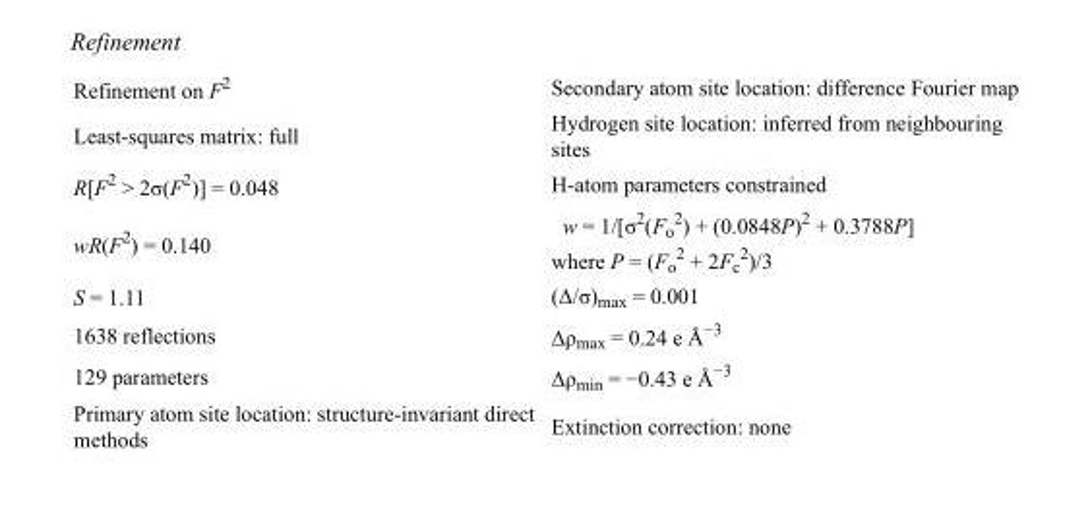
<table><tbody><tr><td>Refinement on F<sup>2</sup></td><td>Secondary atom site location: difference Fourier map</td></tr><tr><td>Least-squares matrix: full</td><td>Hydrogen site location: inferred from neighbouring sites</td></tr><tr><td>R[F<sup>2</sup> &gt; 2σ(F<sup>2</sup>)] = 0.048</td><td>H-atom parameters constrained</td></tr><tr><td>wR(F<sup>2</sup>) = 0.140</td><td>w = 1/[σ<sup>2</sup>(F<sub>o</sub> <sup>2</sup>) + (0.0848P)<sup>2</sup> + 0.3788P] where P = (F<sub>o</sub> <sup>2</sup> + 2F<sub>c</sub> <sup>2</sup>)/3</td></tr><tr><td>S = 1.11</td><td>(Δ/σ)<sub>max</sub> = 0.001</td></tr><tr><td>1638 reflections</td><td>Δρ<sub>max</sub> = 0.24 e Å<sup>−3</sup></td></tr><tr><td>129 parameters</td><td>Δρ<sub>min</sub> = −0.43 e Å<sup>−3</sup></td></tr><tr><td>Primary atom site location: structure-invariant direct methods</td><td>Extinction correction: none</td></tr></tbody></table>